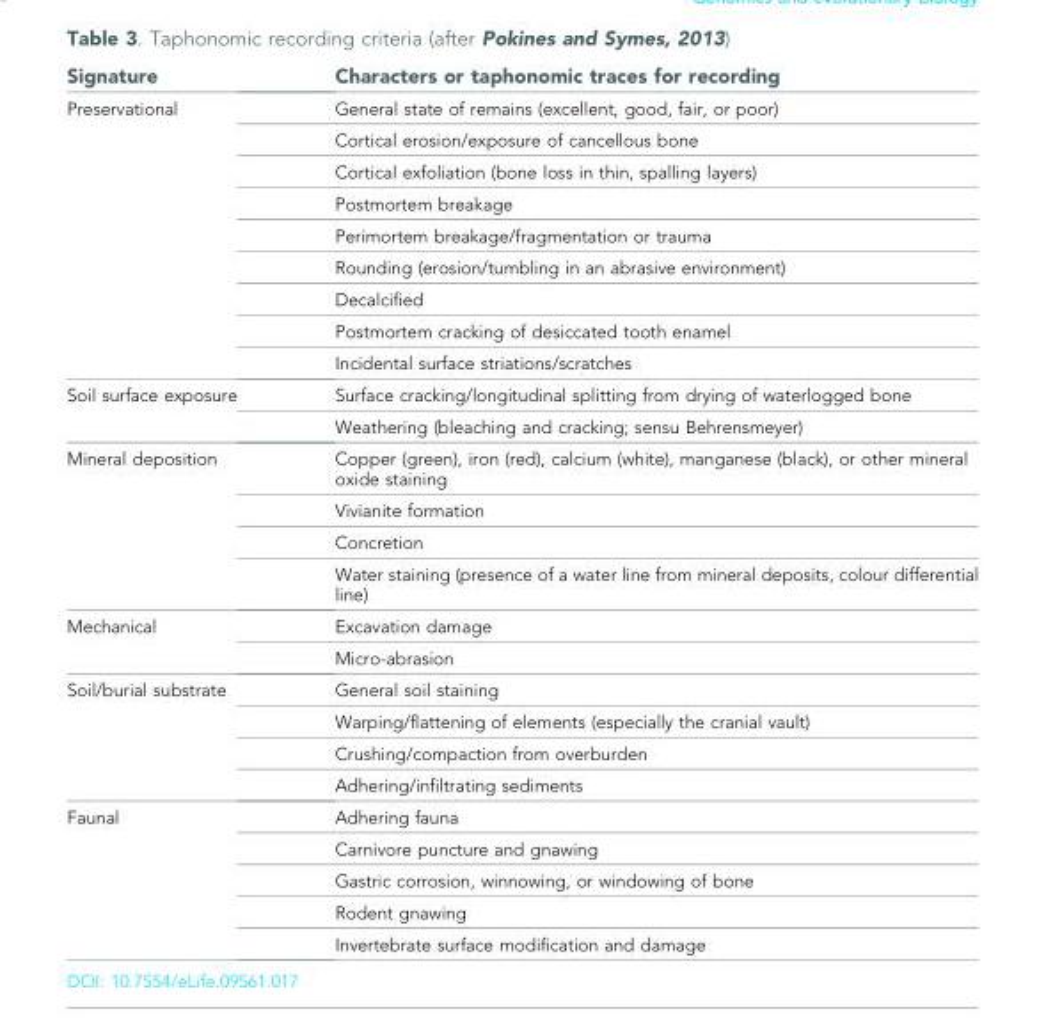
<table><thead><tr><td>Signature</td><td>Characters or taphonomic traces for recording</td></tr></thead><tbody><tr><td rowspan="9">Preservational</td><td>General state of remains (excellent, good, fair, or poor)</td></tr><tr><td>Cortical erosion/exposure of cancellous bone</td></tr><tr><td>Cortical exfoliation (bone loss in thin, spalling layers)</td></tr><tr><td>Postmortem breakage</td></tr><tr><td>Perimortem breakage/fragmentation or trauma</td></tr><tr><td>Rounding (erosion/tumbling in an abrasive environment)</td></tr><tr><td>Decalcified</td></tr><tr><td>Postmortem cracking of desiccated tooth enamel</td></tr><tr><td>Incidental surface striations/scratches</td></tr><tr><td rowspan="2">Soil surface exposure</td><td>Surface cracking/longitudinal splitting from drying of waterlogged bone</td></tr><tr><td>Weathering (bleaching and cracking; sensu Behrensmeyer)</td></tr><tr><td rowspan="4">Mineral deposition</td><td>Copper (green), iron (red), calcium (white), manganese (black), or other mineral oxide staining</td></tr><tr><td>Vivianite formation</td></tr><tr><td>Concretion</td></tr><tr><td>Water staining (presence of a water line from mineral deposits, colour differential line)</td></tr><tr><td rowspan="2">Mechanical</td><td>Excavation damage</td></tr><tr><td>Micro-abrasion</td></tr><tr><td rowspan="4">Soil/burial substrate</td><td>General soil staining</td></tr><tr><td>Warping/flattening of elements (especially the cranial vault)</td></tr><tr><td>Crushing/compaction from overburden</td></tr><tr><td>Adhering/infiltrating sediments</td></tr><tr><td rowspan="5">Faunal</td><td>Adhering fauna</td></tr><tr><td>Carnivore puncture and gnawing</td></tr><tr><td>Gastric corrosion, winnowing, or windowing of bone</td></tr><tr><td>Rodent gnawing</td></tr><tr><td>Invertebrate surface modification and damage</td></tr></tbody></table>